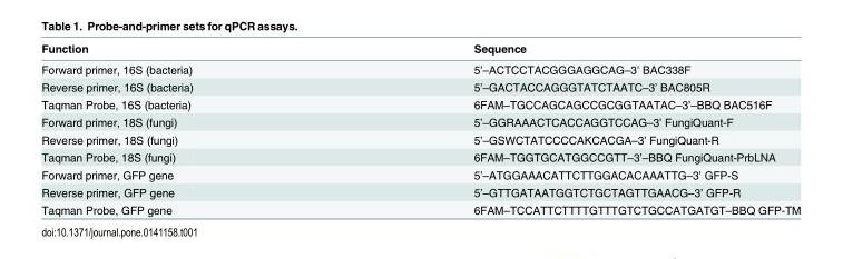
<table><thead><tr><td>Function</td><td>Sequence</td></tr></thead><tbody><tr><td>Forward primer, 16S (bacteria)</td><td>5’–ACTCCTACGGGAGGCAG–3’ BAC338F</td></tr><tr><td>Reverse primer, 16S (bacteria)</td><td>5’–GACTACCAGGGTATCTAATC–3’ BAC805R</td></tr><tr><td>Taqman Probe, 16S (bacteria)</td><td>6FAM–TGCCAGCAGCCGCGGTAATAC–3’–BBQ BAC516F</td></tr><tr><td>Forward primer, 18S (fungi)</td><td>5’–GGRAAACTCACCAGGTCCAG–3’ FungiQuant-F</td></tr><tr><td>Reverse primer, 18S (fungi)</td><td>5’–GSWCTATCCCCAKCACGA–3’ FungiQuant-R</td></tr><tr><td>Taqman Probe, 18S (fungi)</td><td>6FAM–TGGTGCATGGCCGTT–3’–BBQ FungiQuant-PrbLNA</td></tr><tr><td>Forward primer, GFP gene</td><td>5’–ATGGAAACATTCTTGGACACAAATTG–3’ GFP-S</td></tr><tr><td>Reverse primer, GFP gene</td><td>5’–GTTGATAATGGTCTGCTAGTTGAACG–3’ GFP-R</td></tr><tr><td>Taqman Probe, GFP gene</td><td>6FAM–TCCATTCTTTTGTTTGTCTGCCATGATGT–BBQ GFP-TM</td></tr></tbody></table>